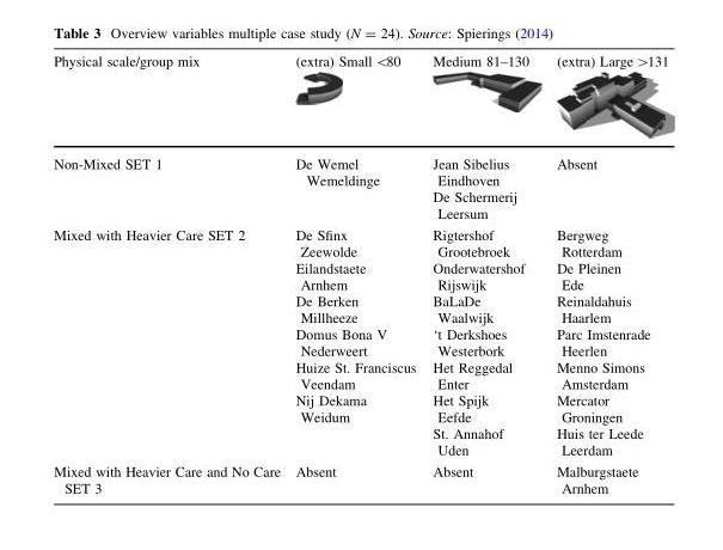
<table><thead><tr><td>Physical scale/group mix</td><td>(extra) Small &lt;80</td><td>Medium 81–130</td><td>(extra) Large &gt;131</td></tr></thead><tbody><tr><td>Non-Mixed SET 1</td><td>De Wemel Wemeldinge</td><td>Jean Sibelius Eindhoven De Schermerij Leersum</td><td>Absent</td></tr><tr><td>Mixed with Heavier Care SET 2</td><td>De Sfinx Zeewolde Eilandstaete Arnhem De Berken Millheeze Domus Bona V Nederweert Huize St. Franciscus Veendam Nij Dekama Weidum</td><td>Rigtershof Grootebroek Onderwatershof Rijswijk BaLaDe Waalwijk ‘t Derkshoes Westerbork Het Reggedal Enter Het Spijk Eefde St. Annahof Uden</td><td>Bergweg Rotterdam De Pleinen Ede Reinaldahuis Haarlem Parc Imstenrade Heerlen Menno Simons Amsterdam Mercator Groningen Huis ter Leede Leerdam</td></tr><tr><td>Mixed with Heavier Care and No Care SET 3</td><td>Absent</td><td>Absent</td><td>Malburgstaete Arnhem</td></tr></tbody></table>